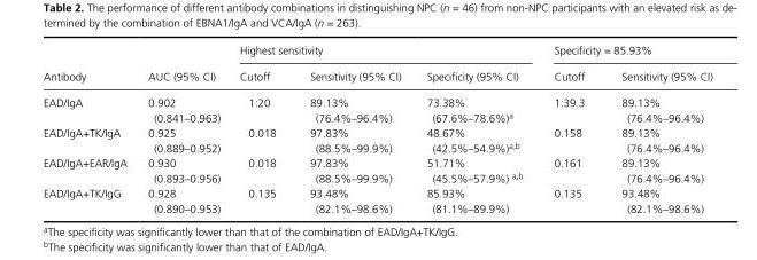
<table><thead><tr><td rowspan="2">Antibody</td><td rowspan="2">AUC (95% CI)</td><td colspan="3">Highest sensitivity</td><td colspan="2">Specificity = 85.93%</td></tr><tr><td>Cutoff</td><td>Sensitivity (95% CI)</td><td>Specificity (95% CI)</td><td>Cutoff</td><td>Sensitivity (95% CI)</td></tr></thead><tbody><tr><td>EAD/IgA</td><td>0.902 (0.841–0.963)</td><td>1:20</td><td>89.13% (76.4%–96.4%)</td><td>73.38% (67.6%–78.6%)<sup>a</sup></td><td>1:39.3</td><td>89.13% (76.4%–96.4%)</td></tr><tr><td>EAD/IgA+TK/IgA</td><td>0.925 (0.889–0.952)</td><td>0.018</td><td>97.83% (88.5%–99.9%)</td><td>48.67% (42.5%–54.9%)<sup>a,</sup>b</td><td>0.158</td><td>89.13% (76.4%–96.4%)</td></tr><tr><td>EAD/IgA+EAR/IgA</td><td>0.930 (0.893–0.956)</td><td>0.018</td><td>97.83% (88.5%–99.9%)</td><td>51.71% (45.5%–57.9%) a<sup>,</sup>b</td><td>0.161</td><td>89.13% (76.4%–96.4%)</td></tr><tr><td>EAD/IgA+TK/IgG</td><td>0.928 (0.890–0.953)</td><td>0.135</td><td>93.48% (82.1%–98.6%)</td><td>85.93% (81.1%–89.9%)</td><td>0.135</td><td>93.48% (82.1%–98.6%)</td></tr></tbody></table>